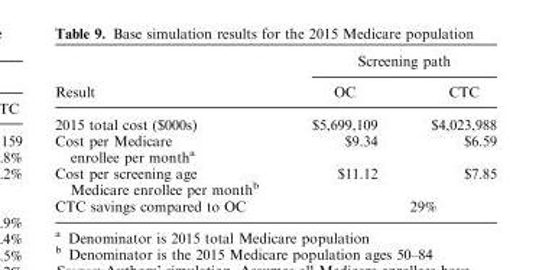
<table><thead><tr><td rowspan="2">Result</td><td colspan="2">Screening path</td></tr><tr><td>OC</td><td>CTC</td></tr></thead><tbody><tr><td>2015 total cost ($000s)</td><td>$5,699,109</td><td>$4,023,988</td></tr><tr><td>Cost per Medicare enrollee per month<sup>a</sup></td><td>$9.34</td><td>$6.59</td></tr><tr><td>Cost per screening age Medicare enrollee per month<sup>b</sup></td><td>$11.12</td><td>$7.85</td></tr><tr><td>CTC savings compared to OC</td><td colspan="2">29%</td></tr></tbody></table>